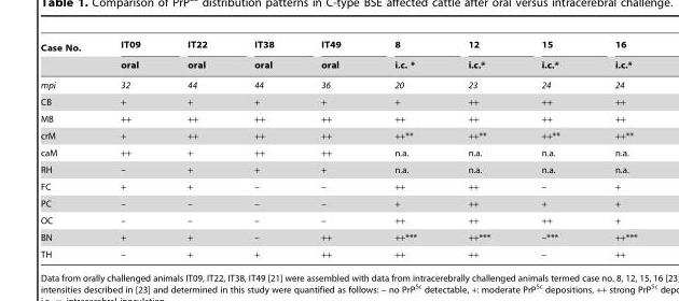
<table><thead><tr><td rowspan="2">Case No.</td><td rowspan="2">IT09 oral</td><td rowspan="2">IT22 oral</td><td rowspan="2">IT38 oral</td><td rowspan="2">IT49 oral</td><td rowspan="2">8 i.c. *</td><td rowspan="2">12 i.c.*</td><td rowspan="2">15 i.c.*</td><td rowspan="2">16 i.c.*</td></tr><tr></tr></thead><tbody><tr><td>mpi</td><td>32</td><td>44</td><td>44</td><td>36</td><td>20</td><td>23</td><td>24</td><td>24</td></tr><tr><td>CB</td><td>+</td><td>+</td><td>+</td><td>+</td><td>+</td><td>++</td><td>++</td><td>++</td></tr><tr><td>MB</td><td>++</td><td>++</td><td>++</td><td>++</td><td>++</td><td>++</td><td>++</td><td>++</td></tr><tr><td>crM</td><td>+</td><td>++</td><td>++</td><td>++</td><td>++**</td><td>++**</td><td>++**</td><td>++**</td></tr><tr><td>caM</td><td>++</td><td>+</td><td>++</td><td>++</td><td>n.a.</td><td>n.a.</td><td>n.a.</td><td>n.a.</td></tr><tr><td>RH</td><td>–</td><td>+</td><td>+</td><td>+</td><td>n.a.</td><td>n.a.</td><td>n.a.</td><td>n.a.</td></tr><tr><td>FC</td><td>+</td><td>+</td><td>–</td><td>–</td><td>++</td><td>++</td><td>–</td><td>+</td></tr><tr><td>PC</td><td>–</td><td>–</td><td>–</td><td>–</td><td>+</td><td>++</td><td>+</td><td>+</td></tr><tr><td>OC</td><td>–</td><td>–</td><td>–</td><td>–</td><td>++</td><td>++</td><td>++</td><td>+</td></tr><tr><td>BN</td><td>+</td><td>+</td><td>–</td><td>++</td><td>++***</td><td>++***</td><td>–***</td><td>++***</td></tr><tr><td>TH</td><td>–</td><td>+</td><td>+</td><td>++</td><td>++</td><td>++</td><td>–</td><td>++</td></tr></tbody></table>